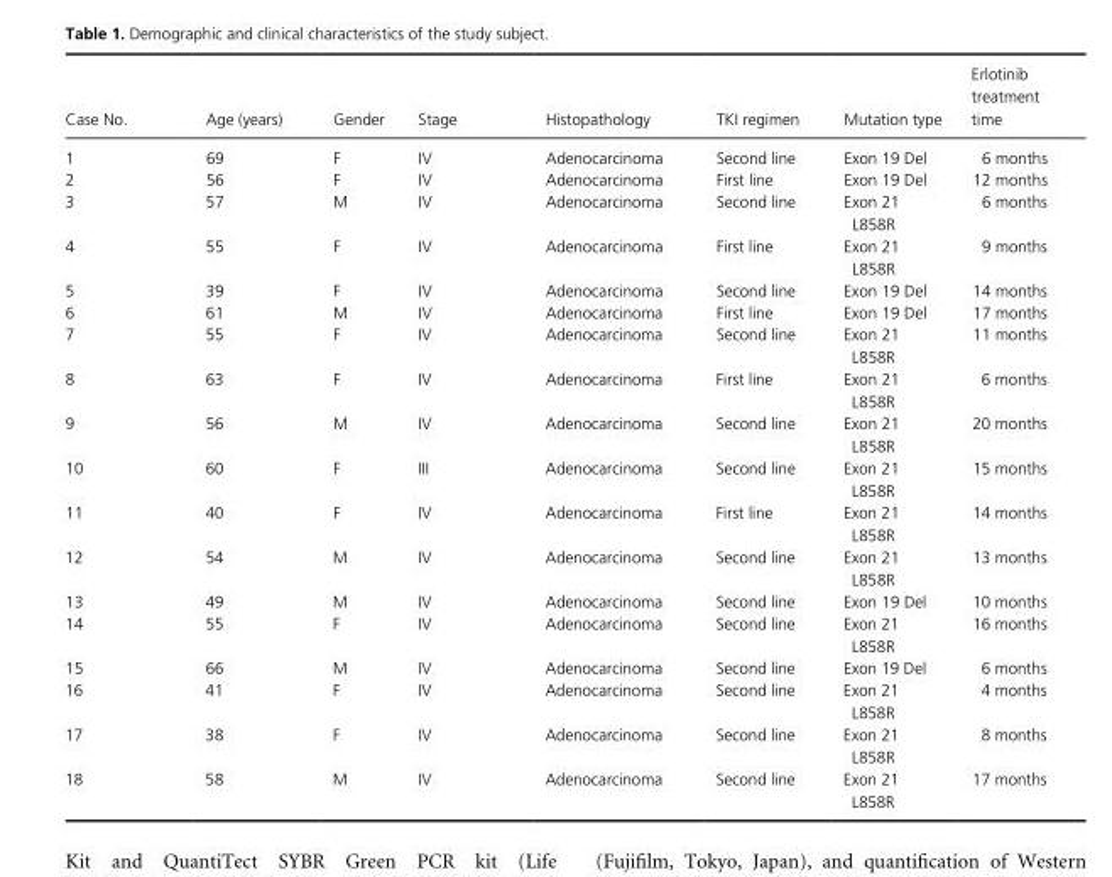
<table><thead><tr><td>Case No.</td><td>Age (years)</td><td>Gender</td><td>Stage</td><td>Histopathology</td><td>TKI regimen</td><td>Mutation type</td><td>Erlotinib treatment time</td></tr></thead><tbody><tr><td>1</td><td>69</td><td>F</td><td>IV</td><td>Adenocarcinoma</td><td>Second line</td><td>Exon 19 Del</td><td>6 months</td></tr><tr><td>2</td><td>56</td><td>F</td><td>IV</td><td>Adenocarcinoma</td><td>First line</td><td>Exon 19 Del</td><td>12 months</td></tr><tr><td>3</td><td>57</td><td>M</td><td>IV</td><td>Adenocarcinoma</td><td>Second line</td><td>Exon 21 L858R</td><td>6 months</td></tr><tr><td>4</td><td>55</td><td>F</td><td>IV</td><td>Adenocarcinoma</td><td>First line</td><td>Exon 21 L858R</td><td>9 months</td></tr><tr><td>5</td><td>39</td><td>F</td><td>IV</td><td>Adenocarcinoma</td><td>Second line</td><td>Exon 19 Del</td><td>14 months</td></tr><tr><td>6</td><td>61</td><td>M</td><td>IV</td><td>Adenocarcinoma</td><td>First line</td><td>Exon 19 Del</td><td>17 months</td></tr><tr><td>7</td><td>55</td><td>F</td><td>IV</td><td>Adenocarcinoma</td><td>Second line</td><td>Exon 21 L858R</td><td>11 months</td></tr><tr><td>8</td><td>63</td><td>F</td><td>IV</td><td>Adenocarcinoma</td><td>First line</td><td>Exon 21 L858R</td><td>6 months</td></tr><tr><td>9</td><td>56</td><td>M</td><td>IV</td><td>Adenocarcinoma</td><td>Second line</td><td>Exon 21 L858R</td><td>20 months</td></tr><tr><td>10</td><td>60</td><td>F</td><td>III</td><td>Adenocarcinoma</td><td>Second line</td><td>Exon 21 L858R</td><td>15 months</td></tr><tr><td>11</td><td>40</td><td>F</td><td>IV</td><td>Adenocarcinoma</td><td>First line</td><td>Exon 21 L858R</td><td>14 months</td></tr><tr><td>12</td><td>54</td><td>M</td><td>IV</td><td>Adenocarcinoma</td><td>Second line</td><td>Exon 21 L858R</td><td>13 months</td></tr><tr><td>13</td><td>49</td><td>M</td><td>IV</td><td>Adenocarcinoma</td><td>Second line</td><td>Exon 19 Del</td><td>10 months</td></tr><tr><td>14</td><td>55</td><td>F</td><td>IV</td><td>Adenocarcinoma</td><td>Second line</td><td>Exon 21 L858R</td><td>16 months</td></tr><tr><td>15</td><td>66</td><td>M</td><td>IV</td><td>Adenocarcinoma</td><td>Second line</td><td>Exon 19 Del</td><td>6 months</td></tr><tr><td>16</td><td>41</td><td>F</td><td>IV</td><td>Adenocarcinoma</td><td>Second line</td><td>Exon 21 L858R</td><td>4 months</td></tr><tr><td>17</td><td>38</td><td>F</td><td>IV</td><td>Adenocarcinoma</td><td>Second line</td><td>Exon 21 L858R</td><td>8 months</td></tr><tr><td>18</td><td>58</td><td>M</td><td>IV</td><td>Adenocarcinoma</td><td>Second line</td><td>Exon 21 L858R</td><td>17 months</td></tr></tbody></table>